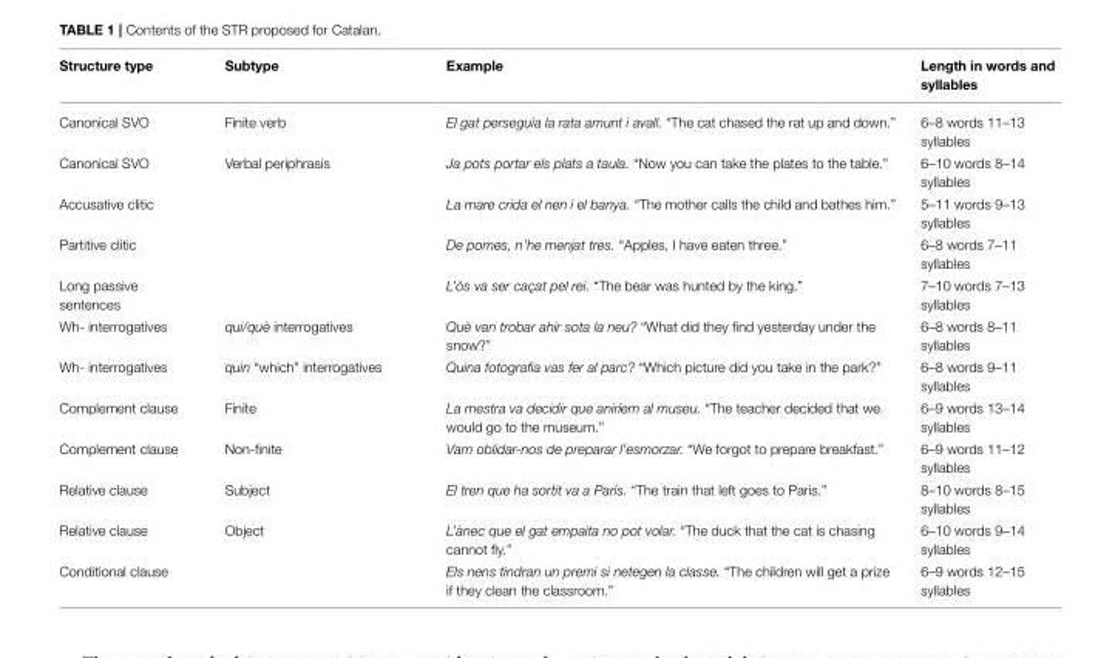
<table><thead><tr><td>Structure type</td><td>Subtype</td><td>Example</td><td>Length in words and syllables</td></tr></thead><tbody><tr><td>Canonical SVO</td><td>Finite verb</td><td>El gat perseguia la rata amunt i avall. “The cat chased the rat up and down.”</td><td>6–8 words 11–13 syllables</td></tr><tr><td>Canonical SVO</td><td>Verbal periphrasis</td><td>Ja pots portar els plats a taula. “Now you can take the plates to the table.”</td><td>6–10 words 8–14 syllables</td></tr><tr><td>Accusative clitic</td><td></td><td>La mare crida el nen i el banya. “The mother calls the child and bathes him.”</td><td>5–11 words 9–13 syllables</td></tr><tr><td>Partitive clitic</td><td></td><td>De pomes, n’he menjat tres. “Apples, I have eaten three.”</td><td>6–8 words 7–11 syllables</td></tr><tr><td>Long passive sentences</td><td></td><td>L’ós va ser caçat pel rei. “The bear was hunted by the king.”</td><td>7–10 words 7–13 syllables</td></tr><tr><td>Wh- interrogatives</td><td>qui/què interrogatives</td><td>Què van trobar ahir sota la neu? “What did they find yesterday under the snow?”</td><td>6–8 words 8–11 syllables</td></tr><tr><td>Wh- interrogatives</td><td>quin “which” interrogatives</td><td>Quina fotografia vas fer al parc? “Which picture did you take in the park?”</td><td>6–8 words 9–11 syllables</td></tr><tr><td>Complement clause</td><td>Finite</td><td>La mestra va decidir que aniríem al museu. “The teacher decided that we would go to the museum.”</td><td>6–9 words 13–14 syllables</td></tr><tr><td>Complement clause</td><td>Non-finite</td><td>Vam oblidar-nos de preparar l’esmorzar. “We forgot to prepare breakfast.”</td><td>6–9 words 11–12 syllables</td></tr><tr><td>Relative clause</td><td>Subject</td><td>El tren que ha sortit va a París. “The train that left goes to Paris.”</td><td>8–10 words 8–15 syllables</td></tr><tr><td>Relative clause</td><td>Object</td><td>L’ànec que el gat empaita no pot volar. “The duck that the cat is chasing cannot fly.”</td><td>6–10 words 9–14 syllables</td></tr><tr><td>Conditional clause</td><td></td><td>Els nens tindran un premi si netegen la classe. “The children will get a prize if they clean the classroom.”</td><td>6–9 words 12–15 syllables</td></tr></tbody></table>